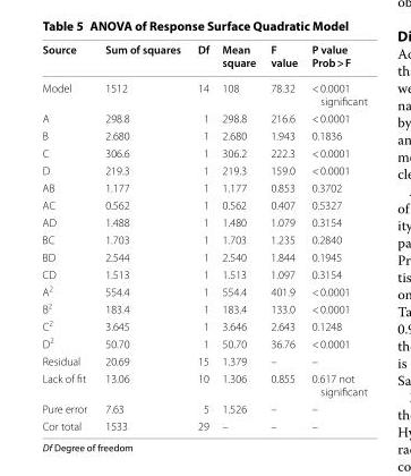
<table><thead><tr><td>Source</td><td>Sum of squares</td><td>Df</td><td>Mean square</td><td>F value</td><td>P value Prob &gt; F</td></tr></thead><tbody><tr><td>Model</td><td>1512</td><td>14</td><td>108</td><td>78.32</td><td>&lt; 0.0001 significant</td></tr><tr><td>A</td><td>298.8</td><td>1</td><td>298.8</td><td>216.6</td><td>&lt; 0.0001</td></tr><tr><td>B</td><td>2.680</td><td>1</td><td>2.680</td><td>1.943</td><td>0.1836</td></tr><tr><td>C</td><td>306.6</td><td>1</td><td>306.2</td><td>222.3</td><td>&lt; 0.0001</td></tr><tr><td>D</td><td>219.3</td><td>1</td><td>219.3</td><td>159.0</td><td>&lt; 0.0001</td></tr><tr><td>AB</td><td>1.177</td><td>1</td><td>1.177</td><td>0.853</td><td>0.3702</td></tr><tr><td>AC</td><td>0.562</td><td>1</td><td>0.562</td><td>0.407</td><td>0.5327</td></tr><tr><td>AD</td><td>1.488</td><td>1</td><td>1.480</td><td>1.079</td><td>0.3154</td></tr><tr><td>BC</td><td>1.703</td><td>1</td><td>1.703</td><td>1.235</td><td>0.2840</td></tr><tr><td>BD</td><td>2.544</td><td>1</td><td>2.540</td><td>1.844</td><td>0.1945</td></tr><tr><td>CD</td><td>1.513</td><td>1</td><td>1.513</td><td>1.097</td><td>0.3154</td></tr><tr><td>A<sup>2</sup></td><td>554.4</td><td>1</td><td>554.4</td><td>401.9</td><td>&lt; 0.0001</td></tr><tr><td>B<sup>2</sup></td><td>183.4</td><td>1</td><td>183.4</td><td>133.0</td><td>&lt; 0.0001</td></tr><tr><td>C<sup>2</sup></td><td>3.645</td><td>1</td><td>3.646</td><td>2.643</td><td>0.1248</td></tr><tr><td>D<sup>2</sup></td><td>50.70</td><td>1</td><td>50.70</td><td>36.76</td><td>&lt; 0.0001</td></tr><tr><td>Residual</td><td>20.69</td><td>15</td><td>1.379</td><td>–</td><td>–</td></tr><tr><td>Lack of fit</td><td>13.06</td><td>10</td><td>1.306</td><td>0.855</td><td>0.617 not significant</td></tr><tr><td>Pure error</td><td>7.63</td><td>5</td><td>1.526</td><td>–</td><td>–</td></tr><tr><td>Cor total</td><td>1533</td><td>29</td><td>–</td><td>–</td><td>–</td></tr></tbody></table>